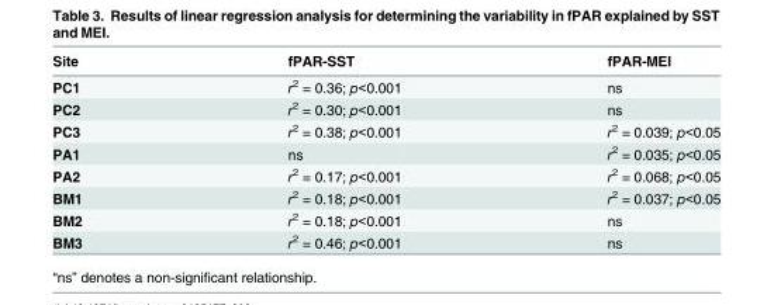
<table><thead><tr><td>Site</td><td>fPAR-SST</td><td>fPAR-MEI</td></tr></thead><tbody><tr><td>PC1</td><td>r<sup>2</sup> = 0.36; p&lt;0.001</td><td>ns</td></tr><tr><td>PC2</td><td>r<sup>2</sup> = 0.30; p&lt;0.001</td><td>ns</td></tr><tr><td>PC3</td><td>r<sup>2</sup> = 0.38; p&lt;0.001</td><td>r<sup>2</sup> = 0.039; p&lt;0.05</td></tr><tr><td>PA1</td><td>ns</td><td>r<sup>2</sup> = 0.035; p&lt;0.05</td></tr><tr><td>PA2</td><td>r<sup>2</sup> = 0.17; p&lt;0.001</td><td>r<sup>2</sup> = 0.068; p&lt;0.05</td></tr><tr><td>BM1</td><td>r<sup>2</sup> = 0.18; p&lt;0.001</td><td>r<sup>2</sup> = 0.037; p&lt;0.05</td></tr><tr><td>BM2</td><td>r<sup>2</sup> = 0.18; p&lt;0.001</td><td>ns</td></tr><tr><td>BM3</td><td>r<sup>2</sup> = 0.46; p&lt;0.001</td><td>ns</td></tr></tbody></table>